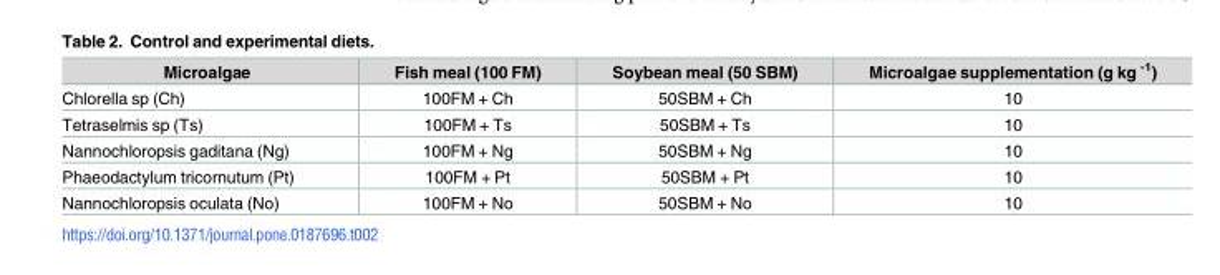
<table><thead><tr><td>Microalgae</td><td>Fish meal (100 FM)</td><td>Soybean meal (50 SBM)</td><td>Microalgae supplementation (g kg <sup>-1</sup>)</td></tr></thead><tbody><tr><td>Chlorella sp (Ch)</td><td>100FM + Ch</td><td>50SBM + Ch</td><td>10</td></tr><tr><td>Tetraselmis sp (Ts)</td><td>100FM + Ts</td><td>50SBM + Ts</td><td>10</td></tr><tr><td>Nannochloropsis gaditana (Ng)</td><td>100FM + Ng</td><td>50SBM + Ng</td><td>10</td></tr><tr><td>Phaeodactylum tricornutum (Pt)</td><td>100FM + Pt</td><td>50SBM + Pt</td><td>10</td></tr><tr><td>Nannochloropsis oculata (No)</td><td>100FM + No</td><td>50SBM + No</td><td>10</td></tr></tbody></table>